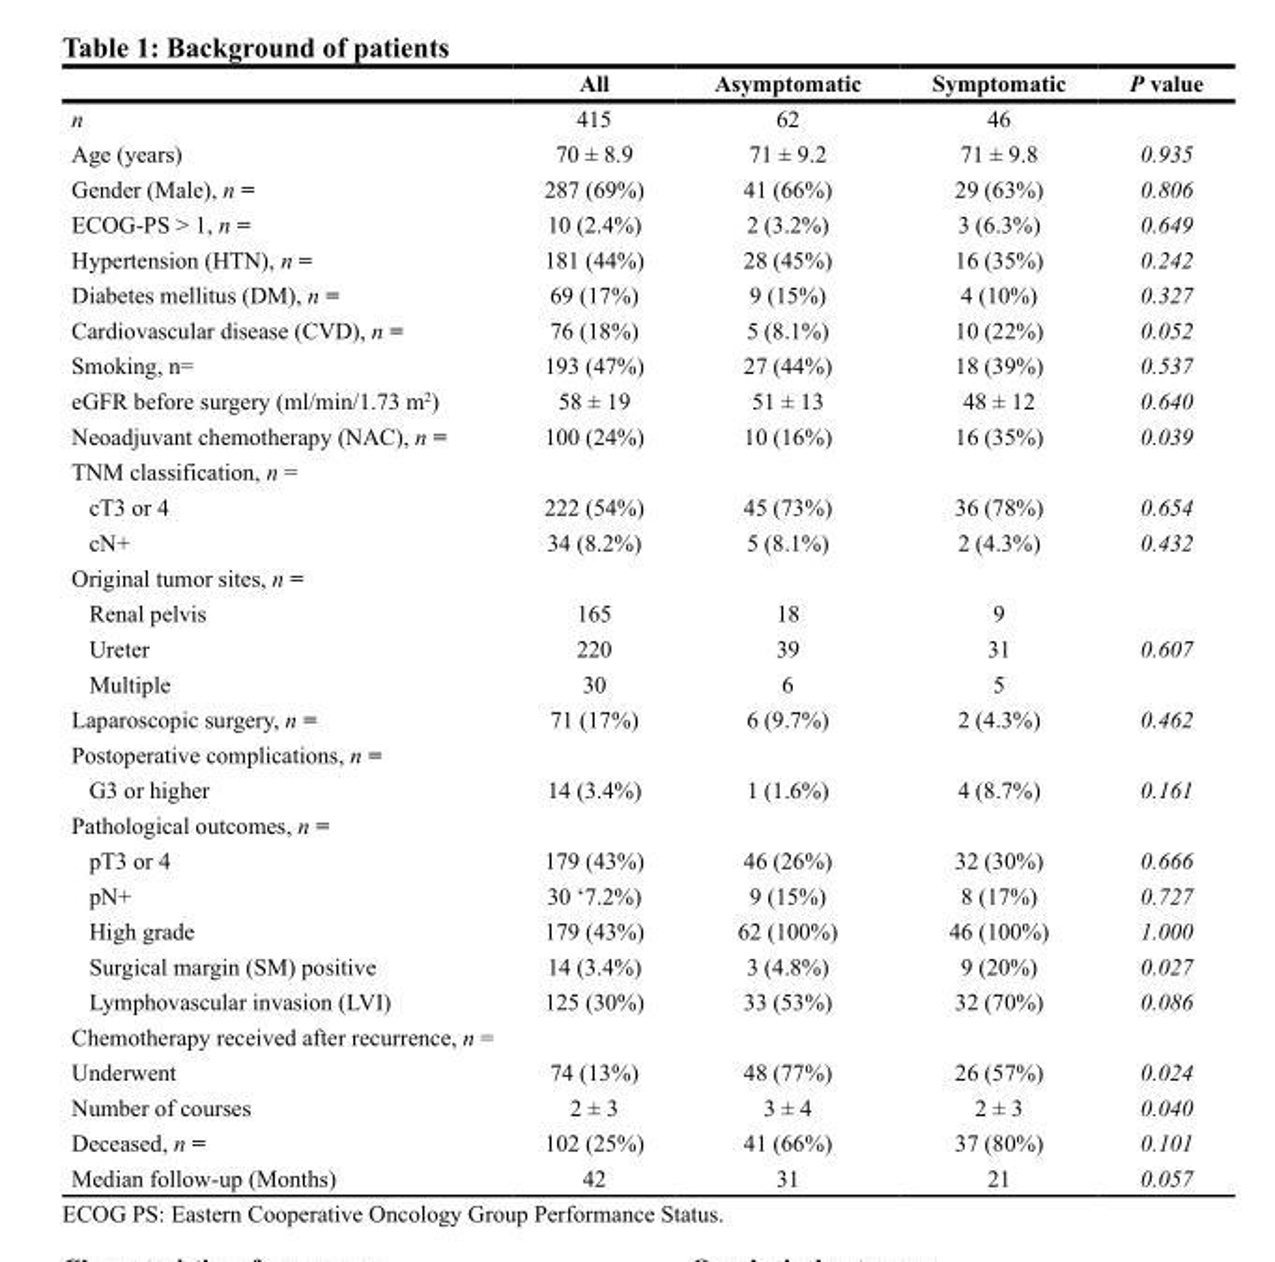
<table><thead><tr><td></td><td>All</td><td>Asymptomatic</td><td>Symptomatic</td><td>P value</td></tr></thead><tbody><tr><td>n</td><td>415</td><td>62</td><td>46</td><td></td></tr><tr><td>Age (years)</td><td>70 ± 8.9</td><td>71 ± 9.2</td><td>71 ± 9.8</td><td>0.935</td></tr><tr><td>Gender (Male), n =</td><td>287 (69%)</td><td>41 (66%)</td><td>29 (63%)</td><td>0.806</td></tr><tr><td>ECOG-PS &gt; 1, n =</td><td>10 (2.4%)</td><td>2 (3.2%)</td><td>3 (6.3%)</td><td>0.649</td></tr><tr><td>Hypertension (HTN), n =</td><td>181 (44%)</td><td>28 (45%)</td><td>16 (35%)</td><td>0.242</td></tr><tr><td>Diabetes mellitus (DM), n =</td><td>69 (17%)</td><td>9 (15%)</td><td>4 (10%)</td><td>0.327</td></tr><tr><td>Cardiovascular disease (CVD), n =</td><td>76 (18%)</td><td>5 (8.1%)</td><td>10 (22%)</td><td>0.052</td></tr><tr><td>Smoking, n=</td><td>193 (47%)</td><td>27 (44%)</td><td>18 (39%)</td><td>0.537</td></tr><tr><td>eGFR before surgery (ml/min/1.73 m<sup>2</sup>)</td><td>58 ± 19</td><td>51 ± 13</td><td>48 ± 12</td><td>0.640</td></tr><tr><td>Neoadjuvant chemotherapy (NAC), n =</td><td>100 (24%)</td><td>10 (16%)</td><td>16 (35%)</td><td>0.039</td></tr><tr><td colspan="5">TNM classification, n =</td></tr><tr><td>cT3 or 4</td><td>222 (54%)</td><td>45 (73%)</td><td>36 (78%)</td><td>0.654</td></tr><tr><td>cN+</td><td>34 (8.2%)</td><td>5 (8.1%)</td><td>2 (4.3%)</td><td>0.432</td></tr><tr><td colspan="5">Original tumor sites, n =</td></tr><tr><td>Renal pelvis</td><td>165</td><td>18</td><td>9</td><td></td></tr><tr><td>Ureter</td><td>220</td><td>39</td><td>31</td><td>0.607</td></tr><tr><td>Multiple</td><td>30</td><td>6</td><td>5</td><td></td></tr><tr><td>Laparoscopic surgery, n =</td><td>71 (17%)</td><td>6 (9.7%)</td><td>2 (4.3%)</td><td>0.462</td></tr><tr><td colspan="5">Postoperative complications, n =</td></tr><tr><td>G3 or higher</td><td>14 (3.4%)</td><td>1 (1.6%)</td><td>4 (8.7%)</td><td>0.161</td></tr><tr><td colspan="5">Pathological outcomes, n =</td></tr><tr><td>pT3 or 4</td><td>179 (43%)</td><td>46 (26%)</td><td>32 (30%)</td><td>0.666</td></tr><tr><td>pN+</td><td>30 ‘7.2%)</td><td>9 (15%)</td><td>8 (17%)</td><td>0.727</td></tr><tr><td>High grade</td><td>179 (43%)</td><td>62 (100%)</td><td>46 (100%)</td><td>1.000</td></tr><tr><td>Surgical margin (SM) positive</td><td>14 (3.4%)</td><td>3 (4.8%)</td><td>9 (20%)</td><td>0.027</td></tr><tr><td>Lymphovascular invasion (LVI)</td><td>125 (30%)</td><td>33 (53%)</td><td>32 (70%)</td><td>0.086</td></tr><tr><td colspan="5">Chemotherapy received after recurrence, n =</td></tr><tr><td>Underwent</td><td>74 (13%)</td><td>48 (77%)</td><td>26 (57%)</td><td>0.024</td></tr><tr><td>Number of courses</td><td>2 ± 3</td><td>3 ± 4</td><td>2 ± 3</td><td>0.040</td></tr><tr><td>Deceased, n =</td><td>102 (25%)</td><td>41 (66%)</td><td>37 (80%)</td><td>0.101</td></tr><tr><td>Median follow-up (Months)</td><td>42</td><td>31</td><td>21</td><td>0.057</td></tr></tbody></table>